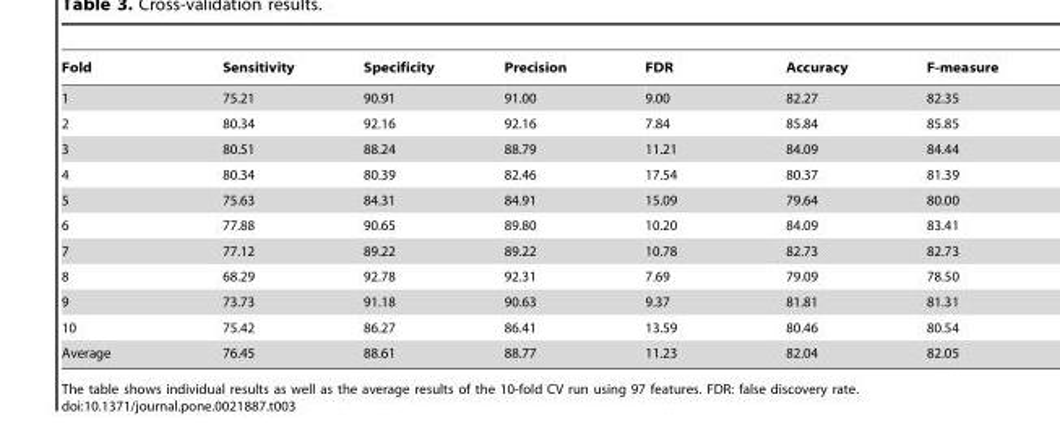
<table><thead><tr><td>Fold</td><td>Sensitivity</td><td>Specificity</td><td>Precision</td><td>FDR</td><td>Accuracy</td><td>F-measure</td></tr></thead><tbody><tr><td>1</td><td>75.21</td><td>90.91</td><td>91.00</td><td>9.00</td><td>82.27</td><td>82.35</td></tr><tr><td>2</td><td>80.34</td><td>92.16</td><td>92.16</td><td>7.84</td><td>85.84</td><td>85.85</td></tr><tr><td>3</td><td>80.51</td><td>88.24</td><td>88.79</td><td>11.21</td><td>84.09</td><td>84.44</td></tr><tr><td>4</td><td>80.34</td><td>80.39</td><td>82.46</td><td>17.54</td><td>80.37</td><td>81.39</td></tr><tr><td>5</td><td>75.63</td><td>84.31</td><td>84.91</td><td>15.09</td><td>79.64</td><td>80.00</td></tr><tr><td>6</td><td>77.88</td><td>90.65</td><td>89.80</td><td>10.20</td><td>84.09</td><td>83.41</td></tr><tr><td>7</td><td>77.12</td><td>89.22</td><td>89.22</td><td>10.78</td><td>82.73</td><td>82.73</td></tr><tr><td>8</td><td>68.29</td><td>92.78</td><td>92.31</td><td>7.69</td><td>79.09</td><td>78.50</td></tr><tr><td>9</td><td>73.73</td><td>91.18</td><td>90.63</td><td>9.37</td><td>81.81</td><td>81.31</td></tr><tr><td>10</td><td>75.42</td><td>86.27</td><td>86.41</td><td>13.59</td><td>80.46</td><td>80.54</td></tr><tr><td>Average</td><td>76.45</td><td>88.61</td><td>88.77</td><td>11.23</td><td>82.04</td><td>82.05</td></tr></tbody></table>